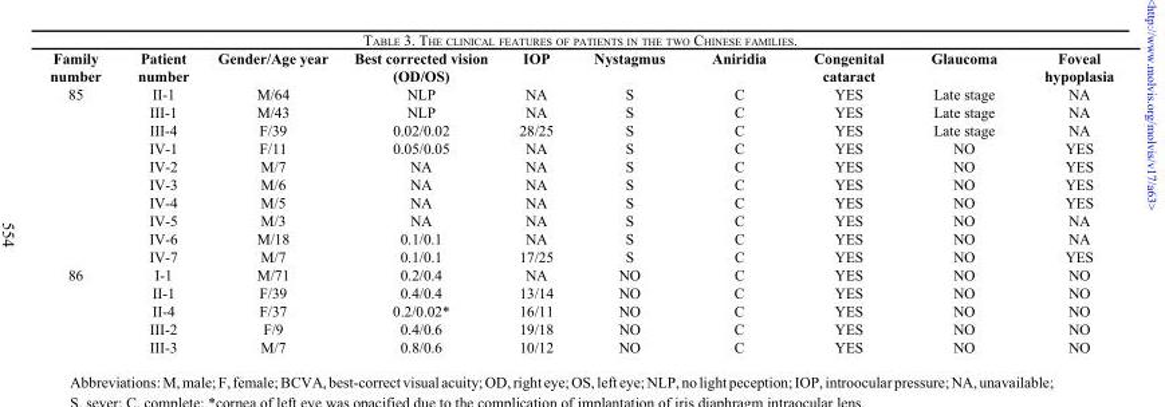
<table><thead><tr><td>Family number</td><td>Patient number</td><td>Gender/Age year</td><td>Best corrected vision (OD/OS)</td><td>IOP</td><td>Nystagmus</td><td>Aniridia</td><td>Congenital cataract</td><td>Glaucoma</td><td>Foveal hypoplasia</td></tr></thead><tbody><tr><td rowspan="10">85</td><td>II-1</td><td>M/64</td><td>NLP</td><td>NA</td><td>S</td><td>C</td><td>YES</td><td>Late stage</td><td>NA</td></tr><tr><td>III-1</td><td>M/43</td><td>NLP</td><td>NA</td><td>S</td><td>C</td><td>YES</td><td>Late stage</td><td>NA</td></tr><tr><td>III-4</td><td>F/39</td><td>0.02/0.02</td><td>28/25</td><td>S</td><td>C</td><td>YES</td><td>Late stage</td><td>NA</td></tr><tr><td>IV-1</td><td>F/11</td><td>0.05/0.05</td><td>NA</td><td>S</td><td>C</td><td>YES</td><td>NO</td><td>YES</td></tr><tr><td>IV-2</td><td>M/7</td><td>NA</td><td>NA</td><td>S</td><td>C</td><td>YES</td><td>NO</td><td>YES</td></tr><tr><td>IV-3</td><td>M/6</td><td>NA</td><td>NA</td><td>S</td><td>C</td><td>YES</td><td>NO</td><td>YES</td></tr><tr><td>IV-4</td><td>M/5</td><td>NA</td><td>NA</td><td>S</td><td>C</td><td>YES</td><td>NO</td><td>YES</td></tr><tr><td>IV-5</td><td>M/3</td><td>NA</td><td>NA</td><td>S</td><td>C</td><td>YES</td><td>NO</td><td>NA</td></tr><tr><td>IV-6</td><td>M/18</td><td>0.1/0.1</td><td>NA</td><td>S</td><td>C</td><td>YES</td><td>NO</td><td>NA</td></tr><tr><td>IV-7</td><td>M/7</td><td>0.1/0.1</td><td>17/25</td><td>S</td><td>C</td><td>YES</td><td>NO</td><td>YES</td></tr><tr><td rowspan="5">86</td><td>I-1</td><td>M/71</td><td>0.2/0.4</td><td>NA</td><td>NO</td><td>C</td><td>YES</td><td>NO</td><td>NO</td></tr><tr><td>II-1</td><td>F/39</td><td>0.4/0.4</td><td>13/14</td><td>NO</td><td>C</td><td>YES</td><td>NO</td><td>NO</td></tr><tr><td>II-4</td><td>F/37</td><td>0.2/0.02*</td><td>16/11</td><td>NO</td><td>C</td><td>YES</td><td>NO</td><td>NO</td></tr><tr><td>III-2</td><td>F/9</td><td>0.4/0.6</td><td>19/18</td><td>NO</td><td>C</td><td>YES</td><td>NO</td><td>NO</td></tr><tr><td>III-3</td><td>M/7</td><td>0.8/0.6</td><td>10/12</td><td>NO</td><td>C</td><td>YES</td><td>NO</td><td>NO</td></tr></tbody></table>